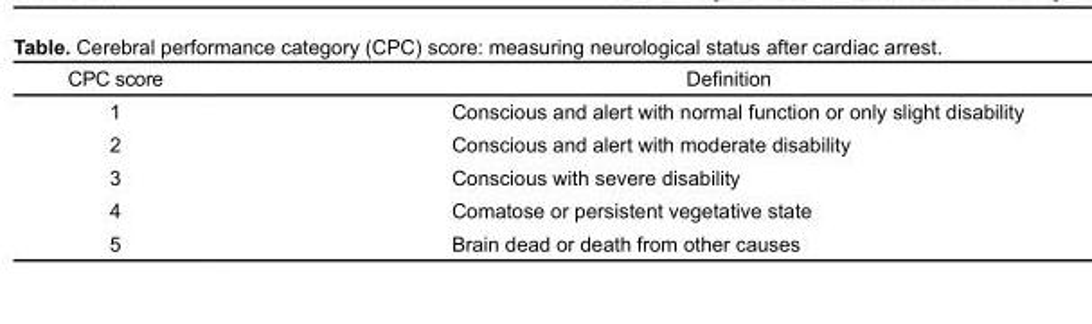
<table><thead><tr><td>CPC score</td><td>Definition</td></tr></thead><tbody><tr><td>1</td><td>Conscious and alert with normal function or only slight disability</td></tr><tr><td>2</td><td>Conscious and alert with moderate disability</td></tr><tr><td>3</td><td>Conscious with severe disability</td></tr><tr><td>4</td><td>Comatose or persistent vegetative state</td></tr><tr><td>5</td><td>Brain dead or death from other causes</td></tr></tbody></table>